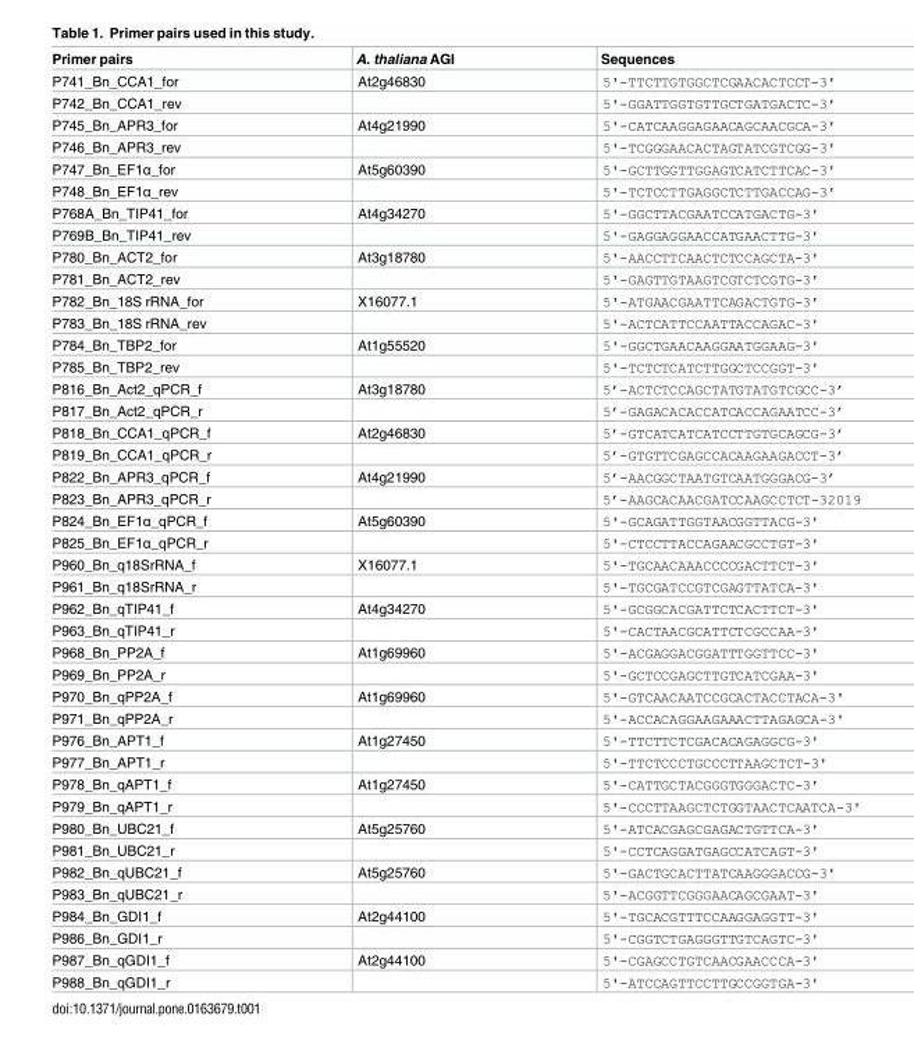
<table><thead><tr><td>Primer pairs</td><td>A. thaliana AGI</td><td>Sequences</td></tr></thead><tbody><tr><td>P741_Bn_CCA1_for</td><td>At2g46830</td><td>5&#x27;-TTCTTGTGGCTCGAACACTCCT-3&#x27;</td></tr><tr><td>P742_Bn_CCA1_rev</td><td></td><td>5&#x27;-GGATTGGTGTTGCTGATGACTC-3&#x27;</td></tr><tr><td>P745_Bn_APR3_for</td><td>At4g21990</td><td>5&#x27;-CATCAAGGAGAACAGCAACGCA-3&#x27;</td></tr><tr><td>P746_Bn_APR3_rev</td><td></td><td>5&#x27;-TCGGGAACACTAGTATCGTCGG-3&#x27;</td></tr><tr><td>P747_Bn_EF1α_for</td><td>At5g60390</td><td>5&#x27;-GCTTGGTTGGAGTCATCTTCAC-3&#x27;</td></tr><tr><td>P748_Bn_EF1α_rev</td><td></td><td>5&#x27;-TCTCCTTGAGGCTCTTGACCAG-3&#x27;</td></tr><tr><td>P768A_Bn_TIP41_for</td><td>At4g34270</td><td>5&#x27;-GGCTTACGAATCCATGACTG-3&#x27;</td></tr><tr><td>P769B_Bn_TIP41_rev</td><td></td><td>5&#x27;-GAGGAGGAACCATGAACTTG-3&#x27;</td></tr><tr><td>P780_Bn_ACT2_for</td><td>At3g18780</td><td>5&#x27;-AACCTTCAACTCTCCAGCTA-3&#x27;</td></tr><tr><td>P781_Bn_ACT2_rev</td><td></td><td>5&#x27;-GAGTTGTAAGTCGTCTCGTG-3&#x27;</td></tr><tr><td>P782_Bn_18S rRNA_for</td><td>X16077.1</td><td>5&#x27;-ATGAACGAATTCAGACTGTG-3&#x27;</td></tr><tr><td>P783_Bn_18S rRNA_rev</td><td></td><td>5&#x27;-ACTCATTCCAATTACCAGAC-3&#x27;</td></tr><tr><td>P784_Bn_TBP2_for</td><td>At1g55520</td><td>5&#x27;-GGCTGAACAAGGAATGGAAG-3&#x27;</td></tr><tr><td>P785_Bn_TBP2_rev</td><td></td><td>5&#x27;-TCTCTCATCTTGGCTCCGGT-3&#x27;</td></tr><tr><td>P816_Bn_Act2_qPCR_f</td><td>At3g18780</td><td>5’-ACTCTCCAGCTATGTATGTCGCC-3’</td></tr><tr><td>P817_Bn_Act2_qPCR_r</td><td></td><td>5’-GAGACACACCATCACCAGAATCC-3’</td></tr><tr><td>P818_Bn_CCA1_qPCR_f</td><td>At2g46830</td><td>5’-GTCATCATCATCCTTGTGCAGCG-3’</td></tr><tr><td>P819_Bn_CCA1_qPCR_r</td><td></td><td>5’-GTGTTCGAGCCACAAGAAGACCT-3’</td></tr><tr><td>P822_Bn_APR3_qPCR_f</td><td>At4g21990</td><td>5’-AACGGCTAATGTCAATGGGACG-3’</td></tr><tr><td>P823_Bn_APR3_qPCR_r</td><td></td><td>5’-AAGCACAACGATCCAAGCCTCT-32019</td></tr><tr><td>P824_Bn_EF1α_qPCR_f</td><td>At5g60390</td><td>5&#x27;-GCAGATTGGTAACGGTTACG-3&#x27;</td></tr><tr><td>P825_Bn_EF1α_qPCR_r</td><td></td><td>5&#x27;-CTCCTTACCAGAACGCCTGT-3&#x27;</td></tr><tr><td>P960_Bn_q18SrRNA_f</td><td>X16077.1</td><td>5&#x27;-TGCAACAAACCCCGACTTCT-3&#x27;</td></tr><tr><td>P961_Bn_q18SrRNA_r</td><td></td><td>5&#x27;-TGCGATCCGTCGAGTTATCA-3&#x27;</td></tr><tr><td>P962_Bn_qTIP41_f</td><td>At4g34270</td><td>5&#x27;-GCGGCACGATTCTCACTTCT-3&#x27;</td></tr><tr><td>P963_Bn_qTIP41_r</td><td></td><td>5&#x27;-CACTAACGCATTCTCGCCAA-3&#x27;</td></tr><tr><td>P968_Bn_PP2A_f</td><td>At1g69960</td><td>5&#x27;-ACGAGGACGGATTTGGTTCC-3&#x27;</td></tr><tr><td>P969_Bn_PP2A_r</td><td></td><td>5&#x27;-GCTCCGAGCTTGTCATCGAA-3&#x27;</td></tr><tr><td>P970_Bn_qPP2A_f</td><td>At1g69960</td><td>5&#x27;-GTCAACAATCCGCACTACCTACA-3&#x27;</td></tr><tr><td>P971_Bn_qPP2A_r</td><td></td><td>5&#x27;-ACCACAGGAAGAAACTTAGAGCA-3&#x27;</td></tr><tr><td>P976_Bn_APT1_f</td><td>At1g27450</td><td>5&#x27;-TTCTTCTCGACACAGAGGCG-3&#x27;</td></tr><tr><td>P977_Bn_APT1_r</td><td></td><td>5&#x27;-TTCTCCCTGCCCTTAAGCTCT-3&#x27;</td></tr><tr><td>P978_Bn_qAPT1_f</td><td>At1g27450</td><td>5&#x27;-CATTGCTACGGGTGGGACTC-3&#x27;</td></tr><tr><td>P979_Bn_qAPT1_r</td><td></td><td>5&#x27;-CCCTTAAGCTCTGGTAACTCAATCA-3&#x27;</td></tr><tr><td>P980_Bn_UBC21_f</td><td>At5g25760</td><td>5&#x27;-ATCACGAGCGAGACTGTTCA-3&#x27;</td></tr><tr><td>P981_Bn_UBC21_r</td><td></td><td>5&#x27;-CCTCAGGATGAGCCATCAGT-3&#x27;</td></tr><tr><td>P982_Bn_qUBC21_f</td><td>At5g25760</td><td>5&#x27;-GACTGCACTTATCAAGGGACCG-3&#x27;</td></tr><tr><td>P983_Bn_qUBC21_r</td><td></td><td>5&#x27;-ACGGTTCGGGAACAGCGAAT-3&#x27;</td></tr><tr><td>P984_Bn_GDI1_f</td><td>At2g44100</td><td>5&#x27;-TGCACGTTTCCAAGGAGGTT-3&#x27;</td></tr><tr><td>P986_Bn_GDI1_r</td><td></td><td>5&#x27;-CGGTCTGAGGGTTGTCAGTC-3&#x27;</td></tr><tr><td>P987_Bn_qGDI1_f</td><td>At2g44100</td><td>5&#x27;-CGAGCCTGTCAACGAACCCA-3&#x27;</td></tr><tr><td>P988_Bn_qGDI1_r</td><td></td><td>5&#x27;-ATCCAGTTCCTTGCCGGTGA-3&#x27;</td></tr></tbody></table>